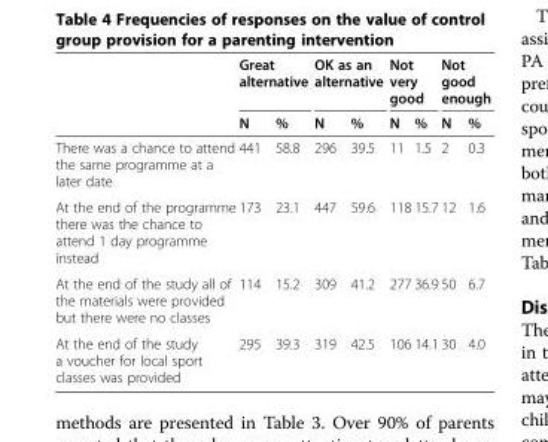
<table><thead><tr><td rowspan="2"></td><td colspan="2">Great alternative</td><td colspan="2">OK as an alternative</td><td colspan="2">Not very good</td><td colspan="2">Not good enough</td></tr><tr><td>N</td><td>%</td><td>N</td><td>%</td><td>N</td><td>%</td><td>N</td><td>%</td></tr></thead><tbody><tr><td>There was a chance to attend the same programme at a later date</td><td>441</td><td>58.8</td><td>296</td><td>39.5</td><td>11</td><td>1.5</td><td>2</td><td>0.3</td></tr><tr><td>At the end of the programme there was the chance to attend 1 day programme instead</td><td>173</td><td>23.1</td><td>447</td><td>59.6</td><td>118</td><td>15.7</td><td>12</td><td>1.6</td></tr><tr><td>At the end of the study all of the materials were provided but there were no classes</td><td>114</td><td>15.2</td><td>309</td><td>41.2</td><td>277</td><td>36.9</td><td>50</td><td>6.7</td></tr><tr><td>At the end of the study a voucher for local sport classes was provided</td><td>295</td><td>39.3</td><td>319</td><td>42.5</td><td>106</td><td>14.1</td><td>30</td><td>4.0</td></tr></tbody></table>